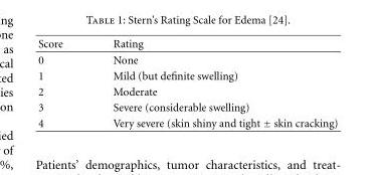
<table><thead><tr><td>Score</td><td>Rating</td></tr></thead><tbody><tr><td>0</td><td>None</td></tr><tr><td>1</td><td>Mild (but definite swelling)</td></tr><tr><td>2</td><td>Moderate</td></tr><tr><td>3</td><td>Severe (considerable swelling)</td></tr><tr><td>4</td><td>Very severe (skin shiny and tight ± skin cracking)</td></tr></tbody></table>